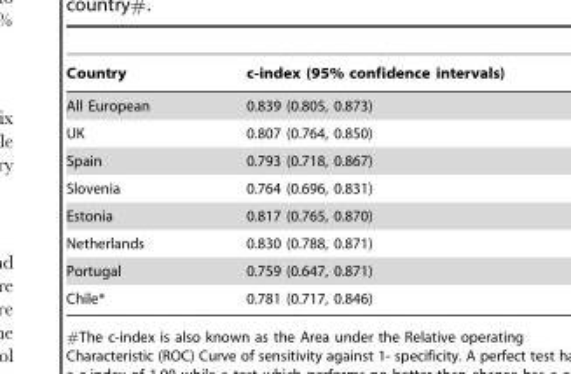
<table><thead><tr><td>Country</td><td>c-index (95% confidence intervals)</td></tr></thead><tbody><tr><td>All European</td><td>0.839 (0.805, 0.873)</td></tr><tr><td>UK</td><td>0.807 (0.764, 0.850)</td></tr><tr><td>Spain</td><td>0.793 (0.718, 0.867)</td></tr><tr><td>Slovenia</td><td>0.764 (0.696, 0.831)</td></tr><tr><td>Estonia</td><td>0.817 (0.765, 0.870)</td></tr><tr><td>Netherlands</td><td>0.830 (0.788, 0.871)</td></tr><tr><td>Portugal</td><td>0.759 (0.647, 0.871)</td></tr><tr><td>Chile*</td><td>0.781 (0.717, 0.846)</td></tr></tbody></table>